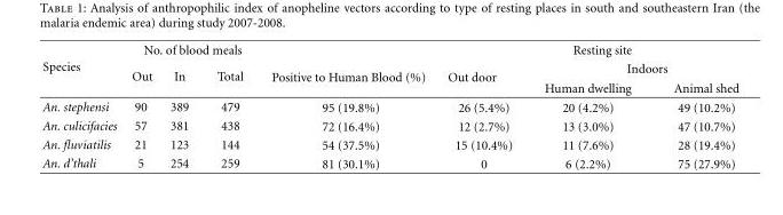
<table><thead><tr><td rowspan="3">Species</td><td colspan="3">No. of blood meals</td><td rowspan="3">Positive to Human Blood (%)</td><td colspan="3">Resting site</td></tr><tr><td rowspan="2">Out</td><td rowspan="2">In</td><td rowspan="2">Total</td><td rowspan="2">Out door</td><td colspan="2">Indoors</td></tr><tr><td>Human dwelling</td><td>Animal shed</td></tr></thead><tbody><tr><td>An. stephensi</td><td>90</td><td>389</td><td>479</td><td>95 (19.8%)</td><td>26 (5.4%)</td><td>20 (4.2%)</td><td>49 (10.2%)</td></tr><tr><td>An. culicifacies</td><td>57</td><td>381</td><td>438</td><td>72 (16.4%)</td><td>12 (2.7%)</td><td>13 (3.0%)</td><td>47 (10.7%)</td></tr><tr><td>An. fluviatilis</td><td>21</td><td>123</td><td>144</td><td>54 (37.5%)</td><td>15 (10.4%)</td><td>11 (7.6%)</td><td>28 (19.4%)</td></tr><tr><td>An. d’thali</td><td>5</td><td>254</td><td>259</td><td>81 (30.1%)</td><td>0</td><td>6 (2.2%)</td><td>75 (27.9%)</td></tr></tbody></table>